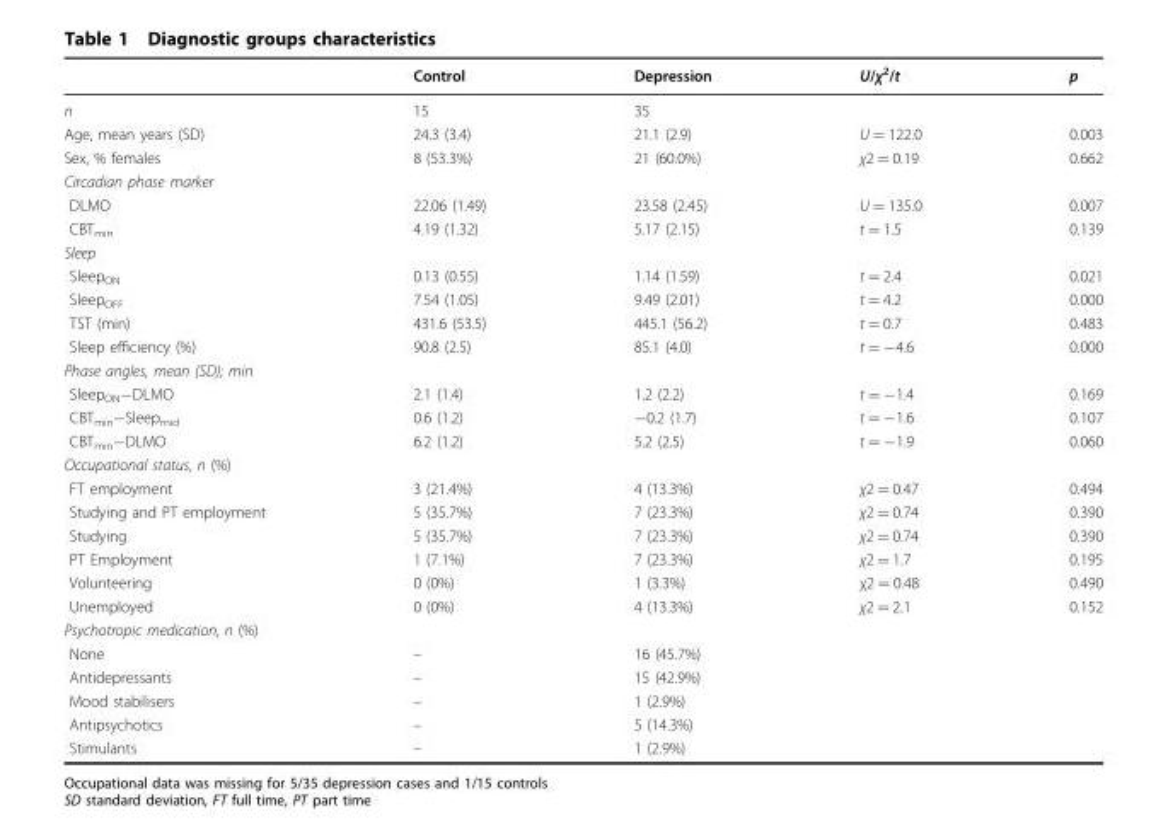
<table><thead><tr><td></td><td>Control</td><td>Depression</td><td>U/χ<sup>2</sup>/t</td><td>p</td></tr></thead><tbody><tr><td>n</td><td>15</td><td>35</td><td></td><td></td></tr><tr><td>Age, mean years (SD)</td><td>24.3 (3.4)</td><td>21.1 (2.9)</td><td>U = 122.0</td><td>0.003</td></tr><tr><td>Sex, % females</td><td>8 (53.3%)</td><td>21 (60.0%)</td><td>χ2 = 0.19</td><td>0.662</td></tr><tr><td colspan="5">Circadian phase marker</td></tr><tr><td>DLMO</td><td>22.06 (1.49)</td><td>23.58 (2.45)</td><td>U = 135.0</td><td>0.007</td></tr><tr><td>CBT<sub>min</sub></td><td>4.19 (1.32)</td><td>5.17 (2.15)</td><td>t = 1.5</td><td>0.139</td></tr><tr><td colspan="5">Sleep</td></tr><tr><td>Sleep<sub>ON</sub></td><td>0.13 (0.55)</td><td>1.14 (1.59)</td><td>t = 2.4</td><td>0.021</td></tr><tr><td>Sleep<sub>OFF</sub></td><td>7.54 (1.05)</td><td>9.49 (2.01)</td><td>t = 4.2</td><td>0.000</td></tr><tr><td>TST (min)</td><td>431.6 (53.5)</td><td>445.1 (56.2)</td><td>t = 0.7</td><td>0.483</td></tr><tr><td>Sleep efficiency (%)</td><td>90.8 (2.5)</td><td>85.1 (4.0)</td><td>t = −4.6</td><td>0.000</td></tr><tr><td colspan="5">Phase angles, mean (SD); min</td></tr><tr><td>Sleep<sub>ON</sub>−DLMO</td><td>2.1 (1.4)</td><td>1.2 (2.2)</td><td>t = −1.4</td><td>0.169</td></tr><tr><td>CBT<sub>min</sub>−Sleep<sub>mid</sub></td><td>0.6 (1.2)</td><td>−0.2 (1.7)</td><td>t = −1.6</td><td>0.107</td></tr><tr><td>CBT<sub>min</sub>−DLMO</td><td>6.2 (1.2)</td><td>5.2 (2.5)</td><td>t = −1.9</td><td>0.060</td></tr><tr><td colspan="5">Occupational status, n (%)</td></tr><tr><td>FT employment</td><td>3 (21.4%)</td><td>4 (13.3%)</td><td>χ2 = 0.47</td><td>0.494</td></tr><tr><td>Studying and PT employment</td><td>5 (35.7%)</td><td>7 (23.3%)</td><td>χ2 = 0.74</td><td>0.390</td></tr><tr><td>Studying</td><td>5 (35.7%)</td><td>7 (23.3%)</td><td>χ2 = 0.74</td><td>0.390</td></tr><tr><td>PT Employment</td><td>1 (7.1%)</td><td>7 (23.3%)</td><td>χ2 = 1.7</td><td>0.195</td></tr><tr><td>Volunteering</td><td>0 (0%)</td><td>1 (3.3%)</td><td>χ2 = 0.48</td><td>0.490</td></tr><tr><td>Unemployed</td><td>0 (0%)</td><td>4 (13.3%)</td><td>χ2 = 2.1</td><td>0.152</td></tr><tr><td colspan="5">Psychotropic medication, n (%)</td></tr><tr><td>None</td><td>–</td><td>16 (45.7%)</td><td></td><td></td></tr><tr><td>Antidepressants</td><td>–</td><td>15 (42.9%)</td><td></td><td></td></tr><tr><td>Mood stabilisers</td><td>–</td><td>1 (2.9%)</td><td></td><td></td></tr><tr><td>Antipsychotics</td><td>–</td><td>5 (14.3%)</td><td></td><td></td></tr><tr><td>Stimulants</td><td>–</td><td>1 (2.9%)</td><td></td><td></td></tr></tbody></table>